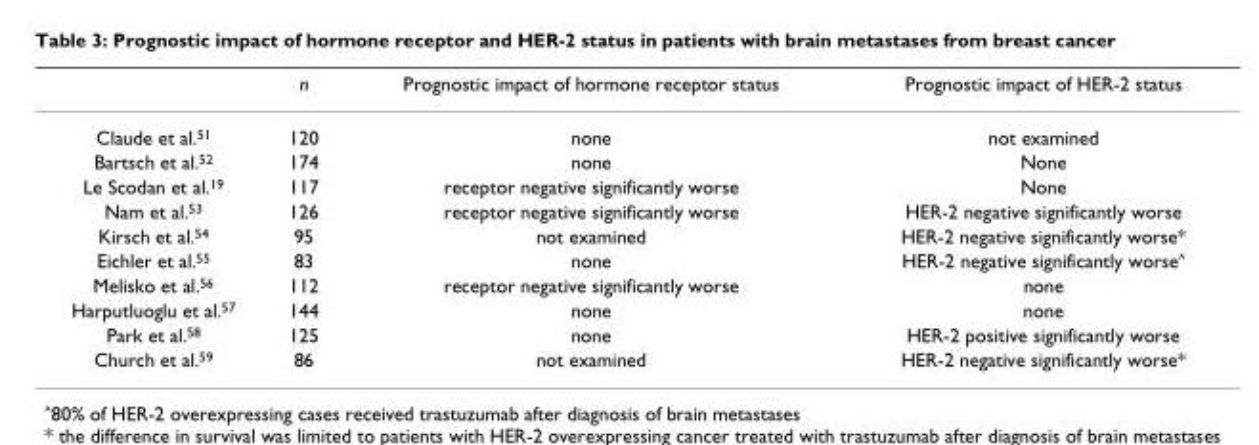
<table><thead><tr><td></td><td>n</td><td>Prognostic impact of hormone receptor status</td><td>Prognostic impact of HER-2 status</td></tr></thead><tbody><tr><td>Claude et al.<sup>51</sup></td><td>120</td><td>none</td><td>not examined</td></tr><tr><td>Bartsch et al.<sup>52</sup></td><td>174</td><td>none</td><td>None</td></tr><tr><td>Le Scodan et al.<sup>19</sup></td><td>117</td><td>receptor negative significantly worse</td><td>None</td></tr><tr><td>Nam et al.<sup>53</sup></td><td>126</td><td>receptor negative significantly worse</td><td>HER-2 negative significantly worse</td></tr><tr><td>Kirsch et al.<sup>54</sup></td><td>95</td><td>not examined</td><td>HER-2 negative significantly worse*</td></tr><tr><td>Eichler et al.<sup>55</sup></td><td>83</td><td>none</td><td>HER-2 negative significantly worse<sup>^</sup></td></tr><tr><td>Melisko et al.<sup>56</sup></td><td>112</td><td>receptor negative significantly worse</td><td>none</td></tr><tr><td>Harputluoglu et al.<sup>57</sup></td><td>144</td><td>none</td><td>none</td></tr><tr><td>Park et al.<sup>58</sup></td><td>125</td><td>none</td><td>HER-2 positive significantly worse</td></tr><tr><td>Church et al.<sup>59</sup></td><td>86</td><td>not examined</td><td>HER-2 negative significantly worse*</td></tr></tbody></table>